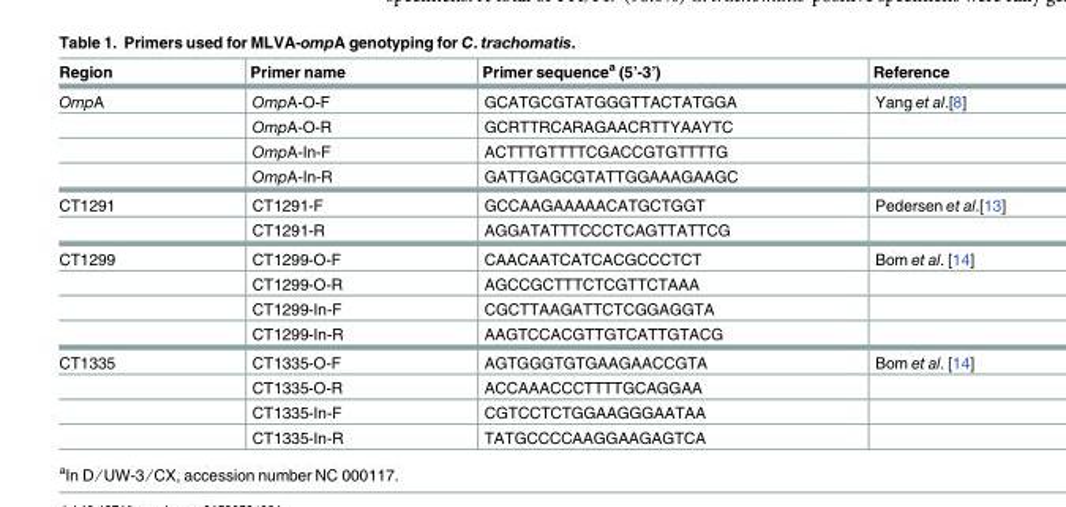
<table><thead><tr><td>Region</td><td>Primer name</td><td>Primer sequence<sup>a</sup> (5’-3’)</td><td>Reference</td></tr></thead><tbody><tr><td rowspan="4">OmpA</td><td>OmpA-O-F</td><td>GCATGCGTATGGGTTACTATGGA</td><td>Yang et al.[8]</td></tr><tr><td>OmpA-O-R</td><td>GCRTTRCARAGAACRTTYAAYTC</td><td></td></tr><tr><td>OmpA-In-F</td><td>ACTTTGTTTTCGACCGTGTTTTG</td><td></td></tr><tr><td>OmpA-In-R</td><td>GATTGAGCGTATTGGAAAGAAGC</td><td></td></tr><tr><td rowspan="2">CT1291</td><td>CT1291-F</td><td>GCCAAGAAAAACATGCTGGT</td><td>Pedersen et al.[13]</td></tr><tr><td>CT1291-R</td><td>AGGATATTTCCCTCAGTTATTCG</td><td></td></tr><tr><td rowspan="4">CT1299</td><td>CT1299-O-F</td><td>CAACAATCATCACGCCCTCT</td><td>Bom et al. [14]</td></tr><tr><td>CT1299-O-R</td><td>AGCCGCTTTCTCGTTCTAAA</td><td></td></tr><tr><td>CT1299-In-F</td><td>CGCTTAAGATTCTCGGAGGTA</td><td></td></tr><tr><td>CT1299-In-R</td><td>AAGTCCACGTTGTCATTGTACG</td><td></td></tr><tr><td rowspan="4">CT1335</td><td>CT1335-O-F</td><td>AGTGGGTGTGAAGAACCGTA</td><td>Bom et al. [14]</td></tr><tr><td>CT1335-O-R</td><td>ACCAAACCCTTTTGCAGGAA</td><td></td></tr><tr><td>CT1335-In-F</td><td>CGTCCTCTGGAAGGGAATAA</td><td></td></tr><tr><td>CT1335-In-R</td><td>TATGCCCCAAGGAAGAGTCA</td><td></td></tr></tbody></table>